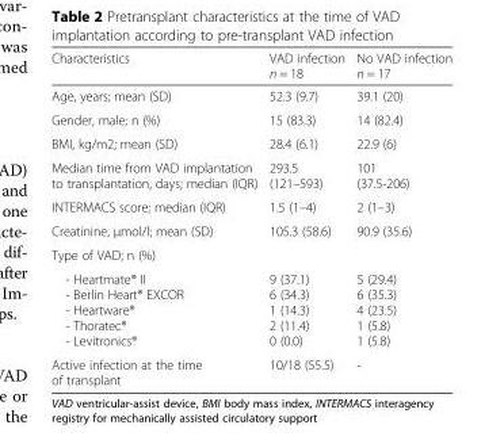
<table><thead><tr><td>Characteristics</td><td>VAD infection n = 18</td><td>No VAD infection n = 17</td></tr></thead><tbody><tr><td>Age, years; mean (SD)</td><td>52.3 (9.7)</td><td>39.1 (20)</td></tr><tr><td>Gender, male; n (%)</td><td>15 (83.3)</td><td>14 (82.4)</td></tr><tr><td>BMI, kg/m2; mean (SD)</td><td>28.4 (6.1)</td><td>22.9 (6)</td></tr><tr><td>Median time from VAD implantation to transplantation, days; median (IQR)</td><td>293.5 (121–593)</td><td>101 (37.5-206)</td></tr><tr><td>INTERMACS score; median (IQR)</td><td>1.5 (1–4)</td><td>2 (1–3)</td></tr><tr><td>Creatinine, μmol/l; mean (SD)</td><td>105.3 (58.6)</td><td>90.9 (35.6)</td></tr><tr><td colspan="3">Type of VAD; n (%)</td></tr><tr><td>- Heartmate® II - Berlin Heart® EXCOR - Heartware® - Thoratec® - Levitronics®</td><td>9 (37.1) 6 (34.3) 1 (14.3) 2 (11.4) 0 (0.0)</td><td>5 (29.4) 6 (35.3) 4 (23.5) 1 (5.8) 1 (5.8)</td></tr><tr><td>Active infection at the time of transplant</td><td>10/18 (55.5)</td><td>-</td></tr></tbody></table>